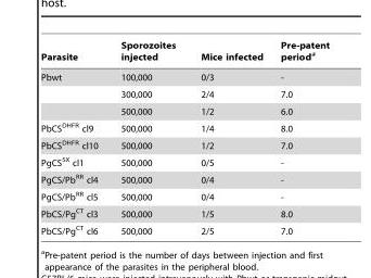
<table><thead><tr><td>Parasite</td><td>Sporozoites injected</td><td>Mice infected</td><td>Pre-patent period<sup>a</sup></td></tr></thead><tbody><tr><td rowspan="3">Pbwt</td><td>100,000</td><td>0/3</td><td>-</td></tr><tr><td>300,000</td><td>2/4</td><td>7.0</td></tr><tr><td>500,000</td><td>1/2</td><td>6.0</td></tr><tr><td>PbCS<sup>DHFR</sup> cl9</td><td>500,000</td><td>1/4</td><td>8.0</td></tr><tr><td>PbCS<sup>DHFR</sup> cl10</td><td>500,000</td><td>1/2</td><td>7.0</td></tr><tr><td>PgCS<sup>SX</sup> cl1</td><td>500,000</td><td>0/5</td><td>-</td></tr><tr><td>PgCS/Pb<sup>RR</sup> cl4</td><td>500,000</td><td>0/4</td><td>-</td></tr><tr><td>PgCS/Pb<sup>RR</sup> cl5</td><td>500,000</td><td>0/4</td><td>-</td></tr><tr><td>PbCS/Pg<sup>CT</sup> cl3</td><td>500,000</td><td>1/5</td><td>8.0</td></tr><tr><td>PbCS/Pg<sup>CT</sup> cl6</td><td>500,000</td><td>2/5</td><td>7.0</td></tr></tbody></table>